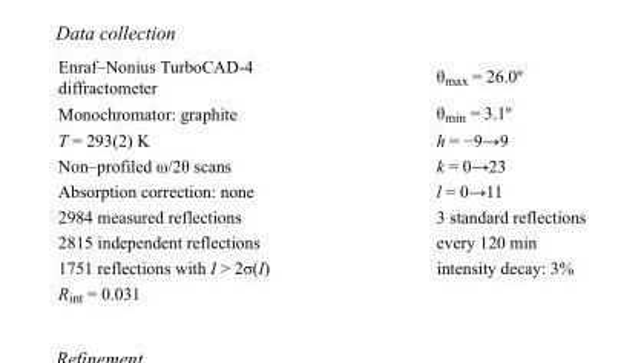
<table><tbody><tr><td>Enraf–Nonius TurboCAD-4 diffractometer</td><td>θ<sub>max</sub> = 26.0º</td></tr><tr><td>Monochromator: graphite</td><td>θ<sub>min</sub> = 3.1º</td></tr><tr><td>T = 293(2) K</td><td>h = −9→9</td></tr><tr><td>Non–profiled ω/2θ scans</td><td>k = 0→23</td></tr><tr><td>Absorption correction: none</td><td>l = 0→11</td></tr><tr><td>2984 measured reflections</td><td>3 standard reflections</td></tr><tr><td>2815 independent reflections</td><td>every 120 min</td></tr><tr><td>1751 reflections with I &gt; 2σ(I)</td><td>intensity decay: 3%</td></tr><tr><td>R<sub>int</sub> = 0.031</td><td></td></tr></tbody></table>